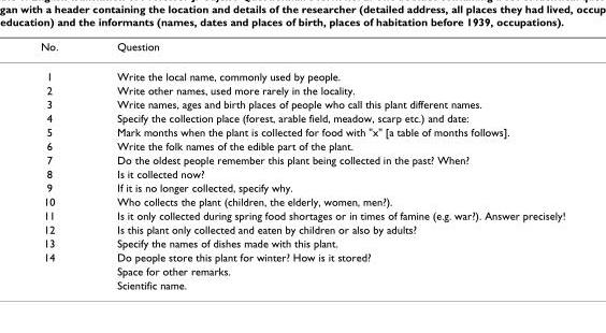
<table><thead><tr><td>No.</td><td>Question</td></tr></thead><tbody><tr><td>1</td><td>Write the local name, commonly used by people.</td></tr><tr><td>2</td><td>Write other names, used more rarely in the locality.</td></tr><tr><td>3</td><td>Write names, ages and birth places of people who call this plant different names.</td></tr><tr><td>4</td><td>Specify the collection place (forest, arable field, meadow, scarp etc.) and date:</td></tr><tr><td>5</td><td>Mark months when the plant is collected for food with &quot;x&quot; [a table of months follows].</td></tr><tr><td>6</td><td>Write the folk names of the edible part of the plant.</td></tr><tr><td>7</td><td>Do the oldest people remember this plant being collected in the past? When?</td></tr><tr><td>8</td><td>Is it collected now?</td></tr><tr><td>9</td><td>If it is no longer collected, specify why.</td></tr><tr><td>10</td><td>Who collects the plant (children, the elderly, women, men?).</td></tr><tr><td>11</td><td>Is it only collected during spring food shortages or in times of famine (e.g. war?). Answer precisely!</td></tr><tr><td>12</td><td>Is this plant only collected and eaten by children or also by adults?</td></tr><tr><td>13</td><td>Specify the names of dishes made with this plant.</td></tr><tr><td rowspan="3">14</td><td>Do people store this plant for winter? How is it stored?</td></tr><tr><td>Space for other remarks.</td></tr><tr><td>Scientific name.</td></tr></tbody></table>